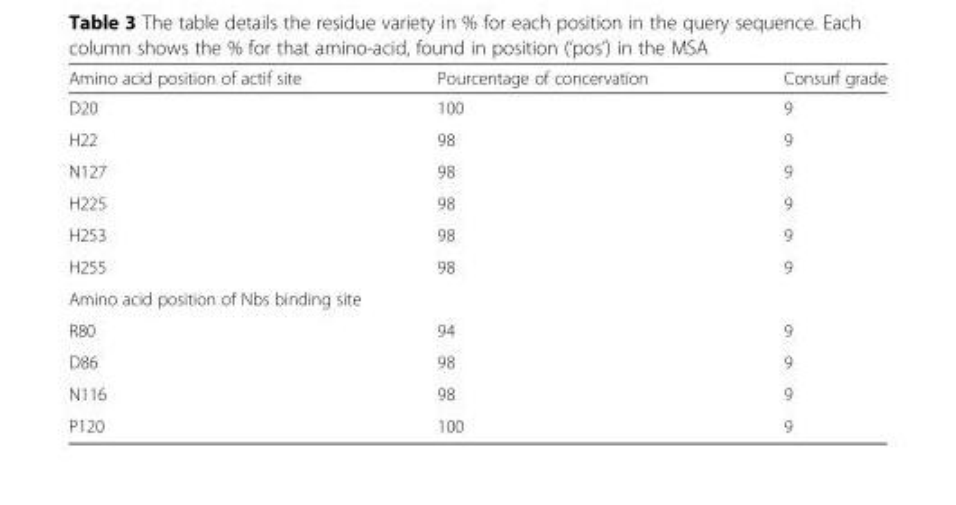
<table><thead><tr><td>Amino acid position of actif site</td><td>Pourcentage of concervation</td><td>Consurf grade</td></tr></thead><tbody><tr><td>D20</td><td>100</td><td>9</td></tr><tr><td>H22</td><td>98</td><td>9</td></tr><tr><td>N127</td><td>98</td><td>9</td></tr><tr><td>H225</td><td>98</td><td>9</td></tr><tr><td>H253</td><td>98</td><td>9</td></tr><tr><td>H255</td><td>98</td><td>9</td></tr><tr><td colspan="3">Amino acid position of Nbs binding site</td></tr><tr><td>R80</td><td>94</td><td>9</td></tr><tr><td>D86</td><td>98</td><td>9</td></tr><tr><td>N116</td><td>98</td><td>9</td></tr><tr><td>P120</td><td>100</td><td>9</td></tr></tbody></table>